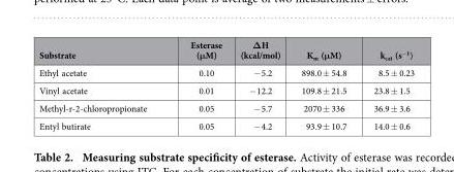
<table><thead><tr><td>Substrate</td><td>Esterase (μM)</td><td>ΔH (kcal/mol)</td><td>K<sub>m</sub> (μM)</td><td>k<sub>cat</sub> (s<sup>−1</sup>)</td></tr></thead><tbody><tr><td>Ethyl acetate</td><td>0.10</td><td>− 5.2</td><td>898.0 ± 54.8</td><td>8.5 ± 0.23</td></tr><tr><td>Vinyl acetate</td><td>0.01</td><td>− 12.2</td><td>109.8 ± 21.5</td><td>23.8 ± 1.5</td></tr><tr><td>Methyl-r-2-chloropropionate</td><td>0.05</td><td>− 5.7</td><td>2070 ± 336</td><td>36.9 ± 3.6</td></tr><tr><td>Entyl butirate</td><td>0.05</td><td>− 4.2</td><td>93.9 ± 10.7</td><td>14.0 ± 0.6</td></tr></tbody></table>